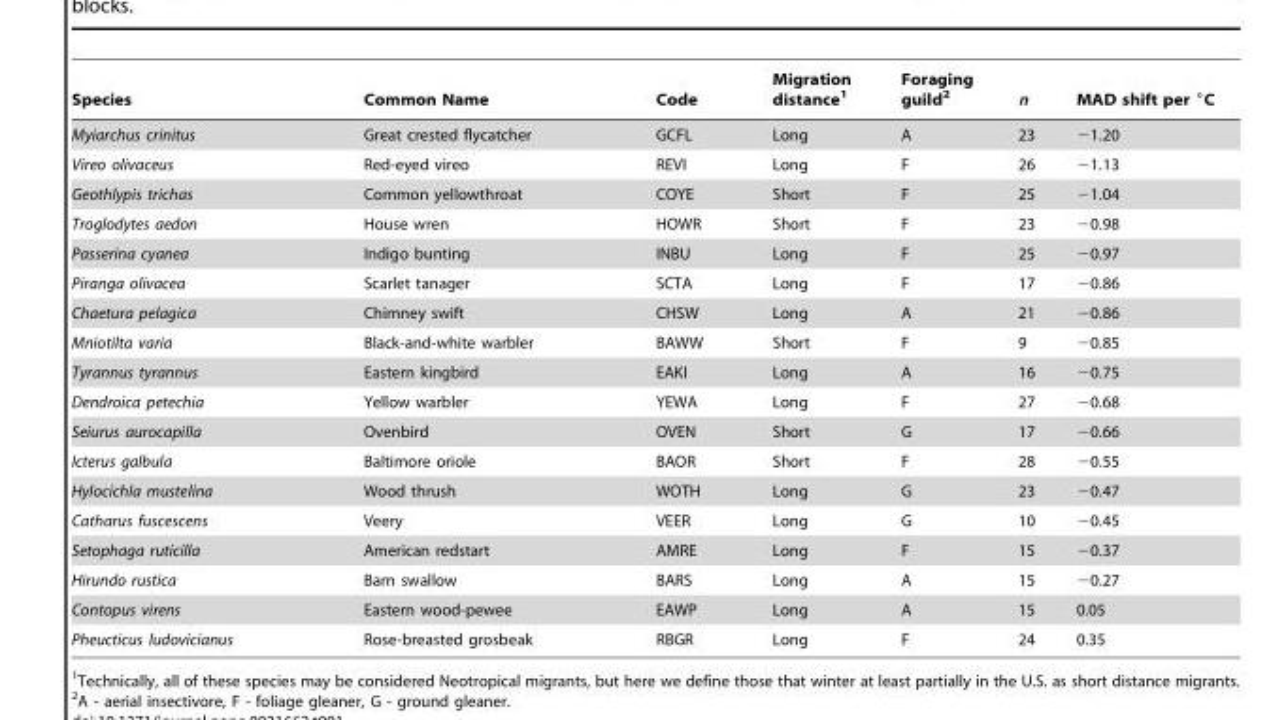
<table><thead><tr><td>Species</td><td>Common Name</td><td>Code</td><td>Migration distance<sup>1</sup></td><td>Foraging guild<sup>2</sup></td><td>n</td><td>MAD shift per °C</td></tr></thead><tbody><tr><td>Myiarchus crinitus</td><td>Great crested flycatcher</td><td>GCFL</td><td>Long</td><td>A</td><td>23</td><td>−1.20</td></tr><tr><td>Vireo olivaceus</td><td>Red-eyed vireo</td><td>REVI</td><td>Long</td><td>F</td><td>26</td><td>−1.13</td></tr><tr><td>Geothlypis trichas</td><td>Common yellowthroat</td><td>COYE</td><td>Short</td><td>F</td><td>25</td><td>−1.04</td></tr><tr><td>Troglodytes aedon</td><td>House wren</td><td>HOWR</td><td>Short</td><td>F</td><td>23</td><td>−0.98</td></tr><tr><td>Passerina cyanea</td><td>Indigo bunting</td><td>INBU</td><td>Long</td><td>F</td><td>25</td><td>−0.97</td></tr><tr><td>Piranga olivacea</td><td>Scarlet tanager</td><td>SCTA</td><td>Long</td><td>F</td><td>17</td><td>−0.86</td></tr><tr><td>Chaetura pelagica</td><td>Chimney swift</td><td>CHSW</td><td>Long</td><td>A</td><td>21</td><td>−0.86</td></tr><tr><td>Mniotilta varia</td><td>Black-and-white warbler</td><td>BAWW</td><td>Short</td><td>F</td><td>9</td><td>−0.85</td></tr><tr><td>Tyrannus tyrannus</td><td>Eastern kingbird</td><td>EAKI</td><td>Long</td><td>A</td><td>16</td><td>−0.75</td></tr><tr><td>Dendroica petechia</td><td>Yellow warbler</td><td>YEWA</td><td>Long</td><td>F</td><td>27</td><td>−0.68</td></tr><tr><td>Seiurus aurocapilla</td><td>Ovenbird</td><td>OVEN</td><td>Short</td><td>G</td><td>17</td><td>−0.66</td></tr><tr><td>Icterus galbula</td><td>Baltimore oriole</td><td>BAOR</td><td>Short</td><td>F</td><td>28</td><td>−0.55</td></tr><tr><td>Hylocichla mustelina</td><td>Wood thrush</td><td>WOTH</td><td>Long</td><td>G</td><td>23</td><td>−0.47</td></tr><tr><td>Catharus fuscescens</td><td>Veery</td><td>VEER</td><td>Long</td><td>G</td><td>10</td><td>−0.45</td></tr><tr><td>Setophaga ruticilla</td><td>American redstart</td><td>AMRE</td><td>Long</td><td>F</td><td>15</td><td>−0.37</td></tr><tr><td>Hirundo rustica</td><td>Barn swallow</td><td>BARS</td><td>Long</td><td>A</td><td>15</td><td>−0.27</td></tr><tr><td>Contopus virens</td><td>Eastern wood-pewee</td><td>EAWP</td><td>Long</td><td>A</td><td>15</td><td>0.05</td></tr><tr><td>Pheucticus ludovicianus</td><td>Rose-breasted grosbeak</td><td>RBGR</td><td>Long</td><td>F</td><td>24</td><td>0.35</td></tr></tbody></table>